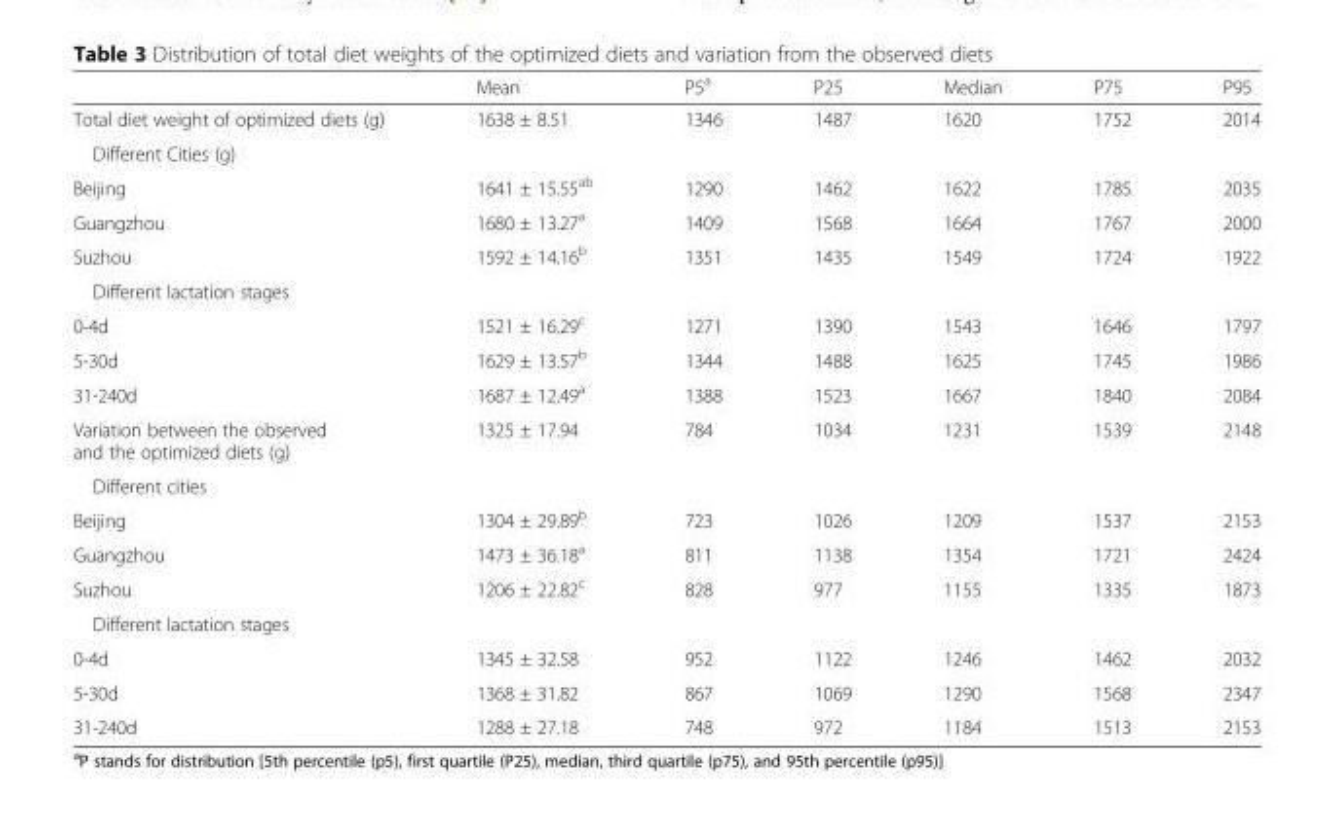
<table><thead><tr><td></td><td>Mean</td><td>P5<sup>a</sup></td><td>P25</td><td>Median</td><td>P75</td><td>P95</td></tr></thead><tbody><tr><td>Total diet weight of optimized diets (g)</td><td>1638 ± 8.51</td><td>1346</td><td>1487</td><td>1620</td><td>1752</td><td>2014</td></tr><tr><td colspan="7">Different Cities (g)</td></tr><tr><td>Beijing</td><td>1641 ± 15.55<sup>ab</sup></td><td>1290</td><td>1462</td><td>1622</td><td>1785</td><td>2035</td></tr><tr><td>Guangzhou</td><td>1680 ± 13.27<sup>a</sup></td><td>1409</td><td>1568</td><td>1664</td><td>1767</td><td>2000</td></tr><tr><td>Suzhou</td><td>1592 ± 14.16<sup>b</sup></td><td>1351</td><td>1435</td><td>1549</td><td>1724</td><td>1922</td></tr><tr><td colspan="7">Different lactation stages</td></tr><tr><td>0-4d</td><td>1521 ± 16.29<sup>c</sup></td><td>1271</td><td>1390</td><td>1543</td><td>1646</td><td>1797</td></tr><tr><td>5-30d</td><td>1629 ± 13.57<sup>b</sup></td><td>1344</td><td>1488</td><td>1625</td><td>1745</td><td>1986</td></tr><tr><td>31-240d</td><td>1687 ± 12.49<sup>a</sup></td><td>1388</td><td>1523</td><td>1667</td><td>1840</td><td>2084</td></tr><tr><td>Variation between the observed and the optimized diets (g)</td><td>1325 ± 17.94</td><td>784</td><td>1034</td><td>1231</td><td>1539</td><td>2148</td></tr><tr><td colspan="7">Different cities</td></tr><tr><td>Beijing</td><td>1304 ± 29.89<sup>b</sup></td><td>723</td><td>1026</td><td>1209</td><td>1537</td><td>2153</td></tr><tr><td>Guangzhou</td><td>1473 ± 36.18<sup>a</sup></td><td>811</td><td>1138</td><td>1354</td><td>1721</td><td>2424</td></tr><tr><td>Suzhou</td><td>1206 ± 22.82<sup>c</sup></td><td>828</td><td>977</td><td>1155</td><td>1335</td><td>1873</td></tr><tr><td colspan="7">Different lactation stages</td></tr><tr><td>0-4d</td><td>1345 ± 32.58</td><td>952</td><td>1122</td><td>1246</td><td>1462</td><td>2032</td></tr><tr><td>5-30d</td><td>1368 ± 31.82</td><td>867</td><td>1069</td><td>1290</td><td>1568</td><td>2347</td></tr><tr><td>31-240d</td><td>1288 ± 27.18</td><td>748</td><td>972</td><td>1184</td><td>1513</td><td>2153</td></tr></tbody></table>